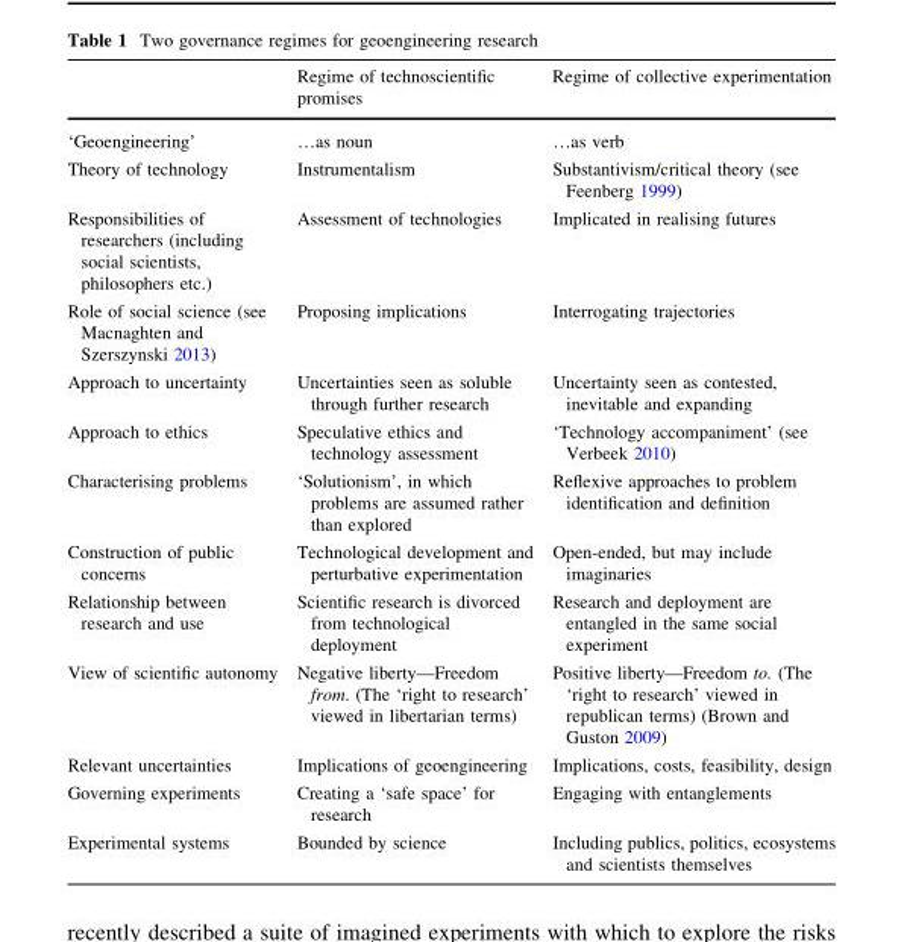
<table><thead><tr><td></td><td>Regime of technoscientific promises</td><td>Regime of collective experimentation</td></tr></thead><tbody><tr><td>‘Geoengineering’</td><td>…as noun</td><td>…as verb</td></tr><tr><td>Theory of technology</td><td>Instrumentalism</td><td>Substantivism/critical theory (see Feenberg 1999)</td></tr><tr><td>Responsibilities of researchers (including social scientists, philosophers etc.)</td><td>Assessment of technologies</td><td>Implicated in realising futures</td></tr><tr><td>Role of social science (see Macnaghten and Szerszynski 2013)</td><td>Proposing implications</td><td>Interrogating trajectories</td></tr><tr><td>Approach to uncertainty</td><td>Uncertainties seen as soluble through further research</td><td>Uncertainty seen as contested, inevitable and expanding</td></tr><tr><td>Approach to ethics</td><td>Speculative ethics and technology assessment</td><td>‘Technology accompaniment’ (see Verbeek 2010)</td></tr><tr><td>Characterising problems</td><td>‘Solutionism’, in which problems are assumed rather than explored</td><td>Reflexive approaches to problem identification and definition</td></tr><tr><td>Construction of public concerns</td><td>Technological development and perturbative experimentation</td><td>Open-ended, but may include imaginaries</td></tr><tr><td>Relationship between research and use</td><td>Scientific research is divorced from technological deployment</td><td>Research and deployment are entangled in the same social experiment</td></tr><tr><td>View of scientific autonomy</td><td>Negative liberty—Freedom from. (The ‘right to research’ viewed in libertarian terms)</td><td>Positive liberty—Freedom to. (The ‘right to research’ viewed in republican terms) (Brown and Guston 2009)</td></tr><tr><td>Relevant uncertainties</td><td>Implications of geoengineering</td><td>Implications, costs, feasibility, design</td></tr><tr><td>Governing experiments</td><td>Creating a ‘safe space’ for research</td><td>Engaging with entanglements</td></tr><tr><td>Experimental systems</td><td>Bounded by science</td><td>Including publics, politics, ecosystems and scientists themselves</td></tr></tbody></table>